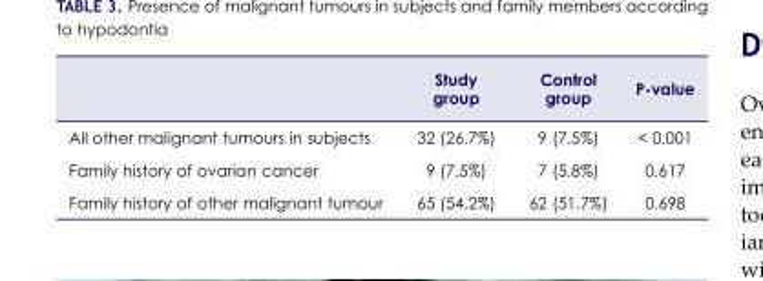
<table><thead><tr><td></td><td>Study group</td><td>Control group</td><td>P-value</td></tr></thead><tbody><tr><td>All other malignant tumours in subjects</td><td>32 (26.7%)</td><td>9 (7.5%)</td><td>&lt; 0.001</td></tr><tr><td>Family history of ovarian cancer</td><td>9 (7.5%)</td><td>7 (5.8%)</td><td>0.617</td></tr><tr><td>Family history of other malignant tumour</td><td>65 (54.2%)</td><td>62 (51.7%)</td><td>0.698</td></tr></tbody></table>